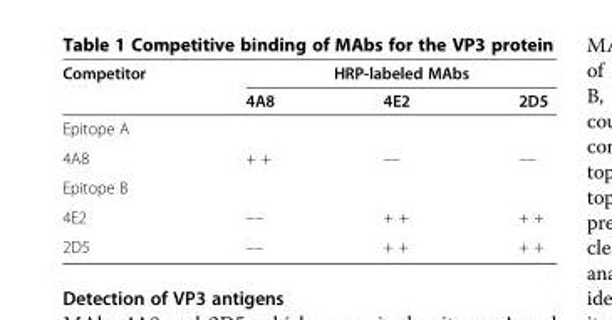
<table><thead><tr><td rowspan="2">Competitor</td><td colspan="3">HRP-labeled MAbs</td></tr><tr><td>4A8</td><td>4E2</td><td>2D5</td></tr></thead><tbody><tr><td colspan="4">Epitope A</td></tr><tr><td>4A8</td><td>+ +</td><td>––</td><td>––</td></tr><tr><td colspan="4">Epitope B</td></tr><tr><td>4E2</td><td>––</td><td>+ +</td><td>+ +</td></tr><tr><td>2D5</td><td>––</td><td>+ +</td><td>+ +</td></tr></tbody></table>